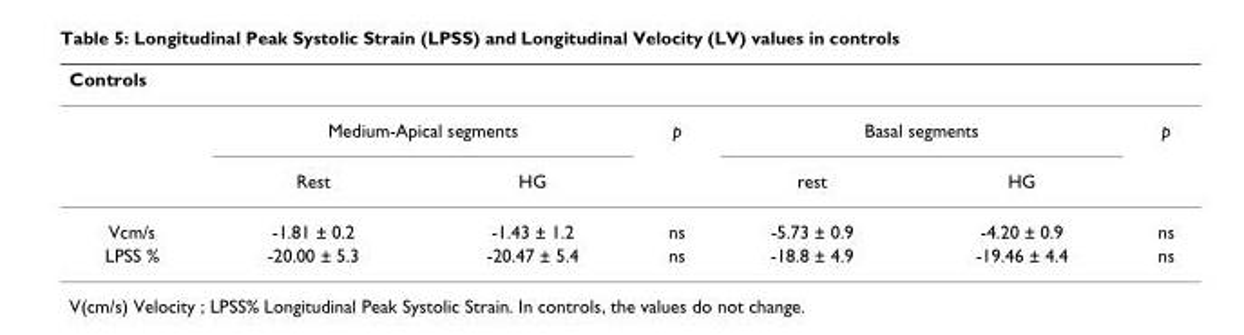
<table><thead><tr><td colspan="7">Controls</td></tr><tr><td rowspan="2"></td><td colspan="2">Medium-Apical segments</td><td rowspan="2">p</td><td colspan="2">Basal segments</td><td rowspan="2">p</td></tr><tr><td>Rest</td><td>HG</td><td>rest</td><td>HG</td></tr></thead><tbody><tr><td>Vcm/s</td><td>-1.81 ± 0.2</td><td>-1.43 ± 1.2</td><td>ns</td><td>-5.73 ± 0.9</td><td>-4.20 ± 0.9</td><td>ns</td></tr><tr><td>LPSS %</td><td>-20.00 ± 5.3</td><td>-20.47 ± 5.4</td><td>ns</td><td>-18.8 ± 4.9</td><td>-19.46 ± 4.4</td><td>ns</td></tr></tbody></table>